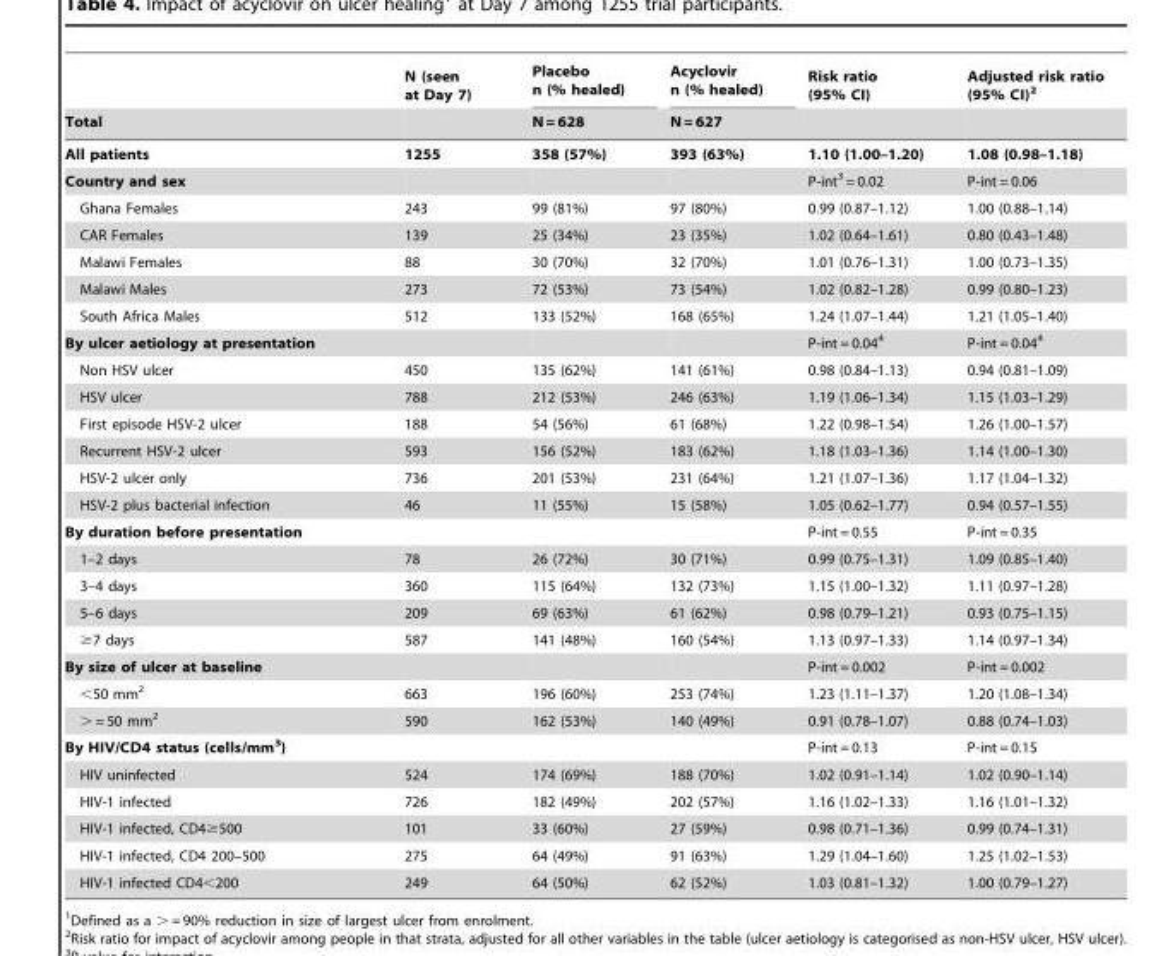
<table><thead><tr><td rowspan="2">Total</td><td rowspan="2">N (seen at Day 7)</td><td rowspan="2">Placebo n (% healed) N = 628</td><td rowspan="2">Acyclovir n (% healed) N = 627</td><td rowspan="2">Risk ratio (95% CI)</td><td rowspan="2">Adjusted risk ratio (95% CI)<sup>2</sup></td></tr><tr></tr></thead><tbody><tr><td>All patients</td><td>1255</td><td>358 (57%)</td><td>393 (63%)</td><td>1.10 (1.00–1.20)</td><td>1.08 (0.98–1.18)</td></tr><tr><td>Country and sex</td><td></td><td></td><td></td><td>P-int<sup>3</sup> = 0.02</td><td>P-int = 0.06</td></tr><tr><td>Ghana Females</td><td>243</td><td>99 (81%)</td><td>97 (80%)</td><td>0.99 (0.87–1.12)</td><td>1.00 (0.88–1.14)</td></tr><tr><td>CAR Females</td><td>139</td><td>25 (34%)</td><td>23 (35%)</td><td>1.02 (0.64–1.61)</td><td>0.80 (0.43–1.48)</td></tr><tr><td>Malawi Females</td><td>88</td><td>30 (70%)</td><td>32 (70%)</td><td>1.01 (0.76–1.31)</td><td>1.00 (0.73–1.35)</td></tr><tr><td>Malawi Males</td><td>273</td><td>72 (53%)</td><td>73 (54%)</td><td>1.02 (0.82–1.28)</td><td>0.99 (0.80–1.23)</td></tr><tr><td>South Africa Males</td><td>512</td><td>133 (52%)</td><td>168 (65%)</td><td>1.24 (1.07–1.44)</td><td>1.21 (1.05–1.40)</td></tr><tr><td colspan="2">By ulcer aetiology at presentation</td><td></td><td></td><td>P-int = 0.04<sup>4</sup></td><td>P-int = 0.04<sup>4</sup></td></tr><tr><td>Non HSV ulcer</td><td>450</td><td>135 (62%)</td><td>141 (61%)</td><td>0.98 (0.84–1.13)</td><td>0.94 (0.81–1.09)</td></tr><tr><td>HSV ulcer</td><td>788</td><td>212 (53%)</td><td>246 (63%)</td><td>1.19 (1.06–1.34)</td><td>1.15 (1.03–1.29)</td></tr><tr><td>First episode HSV-2 ulcer</td><td>188</td><td>54 (56%)</td><td>61 (68%)</td><td>1.22 (0.98–1.54)</td><td>1.26 (1.00–1.57)</td></tr><tr><td>Recurrent HSV-2 ulcer</td><td>593</td><td>156 (52%)</td><td>183 (62%)</td><td>1.18 (1.03–1.36)</td><td>1.14 (1.00–1.30)</td></tr><tr><td>HSV-2 ulcer only</td><td>736</td><td>201 (53%)</td><td>231 (64%)</td><td>1.21 (1.07–1.36)</td><td>1.17 (1.04–1.32)</td></tr><tr><td>HSV-2 plus bacterial infection</td><td>46</td><td>11 (55%)</td><td>15 (58%)</td><td>1.05 (0.62–1.77)</td><td>0.94 (0.57–1.55)</td></tr><tr><td colspan="2">By duration before presentation</td><td></td><td></td><td>P-int = 0.55</td><td>P-int = 0.35</td></tr><tr><td>1–2 days</td><td>78</td><td>26 (72%)</td><td>30 (71%)</td><td>0.99 (0.75–1.31)</td><td>1.09 (0.85–1.40)</td></tr><tr><td>3–4 days</td><td>360</td><td>115 (64%)</td><td>132 (73%)</td><td>1.15 (1.00–1.32)</td><td>1.11 (0.97–1.28)</td></tr><tr><td>5–6 days</td><td>209</td><td>69 (63%)</td><td>61 (62%)</td><td>0.98 (0.79–1.21)</td><td>0.93 (0.75–1.15)</td></tr><tr><td>≥7 days</td><td>587</td><td>141 (48%)</td><td>160 (54%)</td><td>1.13 (0.97–1.33)</td><td>1.14 (0.97–1.34)</td></tr><tr><td colspan="2">By size of ulcer at baseline</td><td></td><td></td><td>P-int = 0.002</td><td>P-int = 0.002</td></tr><tr><td>&lt;50 mm<sup>2</sup></td><td>663</td><td>196 (60%)</td><td>253 (74%)</td><td>1.23 (1.11–1.37)</td><td>1.20 (1.08–1.34)</td></tr><tr><td>&gt; = 50 mm<sup>2</sup></td><td>590</td><td>162 (53%)</td><td>140 (49%)</td><td>0.91 (0.78–1.07)</td><td>0.88 (0.74–1.03)</td></tr><tr><td colspan="3">By HIV/CD4 status (cells/mm<sup>3</sup>)</td><td></td><td>P-int = 0.13</td><td>P-int = 0.15</td></tr><tr><td>HIV uninfected</td><td>524</td><td>174 (69%)</td><td>188 (70%)</td><td>1.02 (0.91–1.14)</td><td>1.02 (0.90–1.14)</td></tr><tr><td>HIV-1 infected</td><td>726</td><td>182 (49%)</td><td>202 (57%)</td><td>1.16 (1.02–1.33)</td><td>1.16 (1.01–1.32)</td></tr><tr><td>HIV-1 infected, CD4≥500</td><td>101</td><td>33 (60%)</td><td>27 (59%)</td><td>0.98 (0.71–1.36)</td><td>0.99 (0.74–1.31)</td></tr><tr><td>HIV-1 infected, CD4 200–500</td><td>275</td><td>64 (49%)</td><td>91 (63%)</td><td>1.29 (1.04–1.60)</td><td>1.25 (1.02–1.53)</td></tr><tr><td>HIV-1 infected CD4&lt;200</td><td>249</td><td>64 (50%)</td><td>62 (52%)</td><td>1.03 (0.81–1.32)</td><td>1.00 (0.79–1.27)</td></tr></tbody></table>